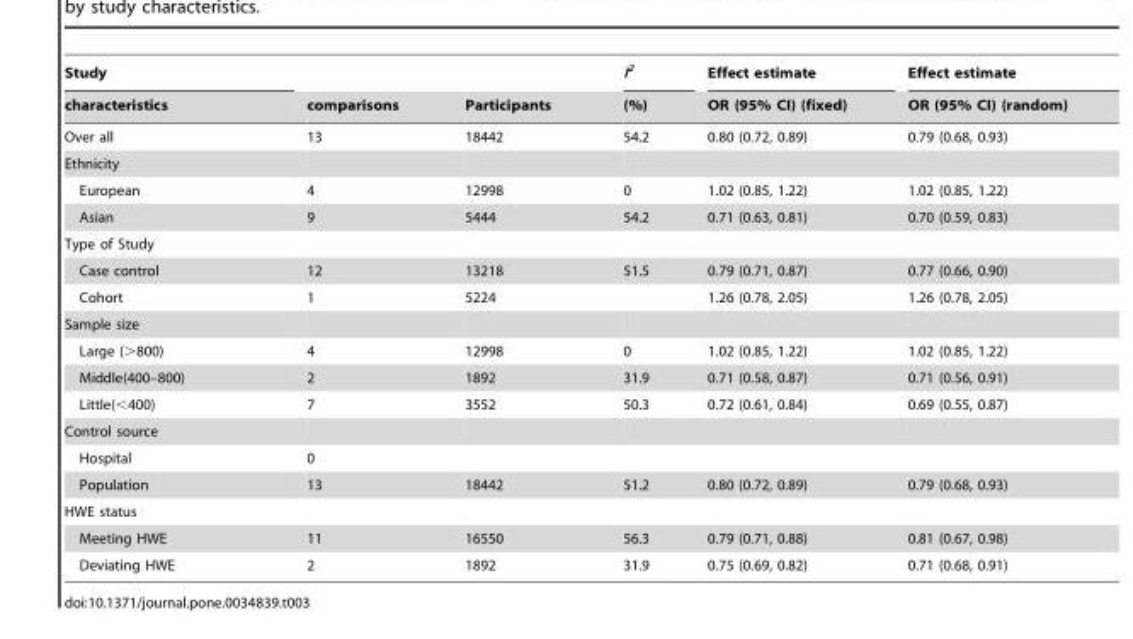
<table><thead><tr><td rowspan="2">Study characteristics</td><td rowspan="2">comparisons</td><td rowspan="2">Participants</td><td rowspan="2">I<sup>2</sup> (%)</td><td rowspan="2">Effect estimate OR (95% CI) (fixed)</td><td rowspan="2">Effect estimate OR (95% CI) (random)</td></tr><tr></tr></thead><tbody><tr><td>Over all</td><td>13</td><td>18442</td><td>54.2</td><td>0.80 (0.72, 0.89)</td><td>0.79 (0.68, 0.93)</td></tr><tr><td colspan="6">Ethnicity</td></tr><tr><td>European</td><td>4</td><td>12998</td><td>0</td><td>1.02 (0.85, 1.22)</td><td>1.02 (0.85, 1.22)</td></tr><tr><td>Asian</td><td>9</td><td>5444</td><td>54.2</td><td>0.71 (0.63, 0.81)</td><td>0.70 (0.59, 0.83)</td></tr><tr><td colspan="6">Type of Study</td></tr><tr><td>Case control</td><td>12</td><td>13218</td><td>51.5</td><td>0.79 (0.71, 0.87)</td><td>0.77 (0.66, 0.90)</td></tr><tr><td>Cohort</td><td>1</td><td>5224</td><td></td><td>1.26 (0.78, 2.05)</td><td>1.26 (0.78, 2.05)</td></tr><tr><td colspan="6">Sample size</td></tr><tr><td>Large (&gt;800)</td><td>4</td><td>12998</td><td>0</td><td>1.02 (0.85, 1.22)</td><td>1.02 (0.85, 1.22)</td></tr><tr><td>Middle(400–800)</td><td>2</td><td>1892</td><td>31.9</td><td>0.71 (0.58, 0.87)</td><td>0.71 (0.56, 0.91)</td></tr><tr><td>Little(&lt;400)</td><td>7</td><td>3552</td><td>50.3</td><td>0.72 (0.61, 0.84)</td><td>0.69 (0.55, 0.87)</td></tr><tr><td colspan="6">Control source</td></tr><tr><td>Hospital</td><td>0</td><td></td><td></td><td></td><td></td></tr><tr><td>Population</td><td>13</td><td>18442</td><td>51.2</td><td>0.80 (0.72, 0.89)</td><td>0.79 (0.68, 0.93)</td></tr><tr><td colspan="6">HWE status</td></tr><tr><td>Meeting HWE</td><td>11</td><td>16550</td><td>56.3</td><td>0.79 (0.71, 0.88)</td><td>0.81 (0.67, 0.98)</td></tr><tr><td>Deviating HWE</td><td>2</td><td>1892</td><td>31.9</td><td>0.75 (0.69, 0.82)</td><td>0.71 (0.68, 0.91)</td></tr></tbody></table>